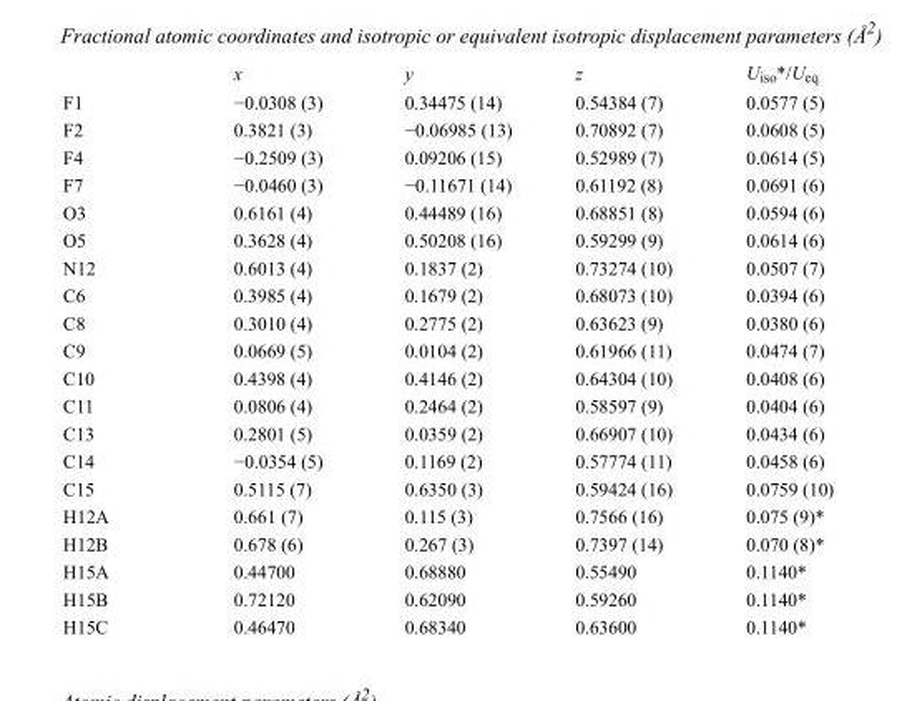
<table><thead><tr><td></td><td>x</td><td>y</td><td>z</td><td>U<sub>iso</sub>*/U<sub>eq</sub></td></tr></thead><tbody><tr><td>F1</td><td>−0.0308 (3)</td><td>0.34475 (14)</td><td>0.54384 (7)</td><td>0.0577 (5)</td></tr><tr><td>F2</td><td>0.3821 (3)</td><td>−0.06985 (13)</td><td>0.70892 (7)</td><td>0.0608 (5)</td></tr><tr><td>F4</td><td>−0.2509 (3)</td><td>0.09206 (15)</td><td>0.52989 (7)</td><td>0.0614 (5)</td></tr><tr><td>F7</td><td>−0.0460 (3)</td><td>−0.11671 (14)</td><td>0.61192 (8)</td><td>0.0691 (6)</td></tr><tr><td>O3</td><td>0.6161 (4)</td><td>0.44489 (16)</td><td>0.68851 (8)</td><td>0.0594 (6)</td></tr><tr><td>O5</td><td>0.3628 (4)</td><td>0.50208 (16)</td><td>0.59299 (9)</td><td>0.0614 (6)</td></tr><tr><td>N12</td><td>0.6013 (4)</td><td>0.1837 (2)</td><td>0.73274 (10)</td><td>0.0507 (7)</td></tr><tr><td>C6</td><td>0.3985 (4)</td><td>0.1679 (2)</td><td>0.68073 (10)</td><td>0.0394 (6)</td></tr><tr><td>C8</td><td>0.3010 (4)</td><td>0.2775 (2)</td><td>0.63623 (9)</td><td>0.0380 (6)</td></tr><tr><td>C9</td><td>0.0669 (5)</td><td>0.0104 (2)</td><td>0.61966 (11)</td><td>0.0474 (7)</td></tr><tr><td>C10</td><td>0.4398 (4)</td><td>0.4146 (2)</td><td>0.64304 (10)</td><td>0.0408 (6)</td></tr><tr><td>C11</td><td>0.0806 (4)</td><td>0.2464 (2)</td><td>0.58597 (9)</td><td>0.0404 (6)</td></tr><tr><td>C13</td><td>0.2801 (5)</td><td>0.0359 (2)</td><td>0.66907 (10)</td><td>0.0434 (6)</td></tr><tr><td>C14</td><td>−0.0354 (5)</td><td>0.1169 (2)</td><td>0.57774 (11)</td><td>0.0458 (6)</td></tr><tr><td>C15</td><td>0.5115 (7)</td><td>0.6350 (3)</td><td>0.59424 (16)</td><td>0.0759 (10)</td></tr><tr><td>H12A</td><td>0.661 (7)</td><td>0.115 (3)</td><td>0.7566 (16)</td><td>0.075 (9)*</td></tr><tr><td>H12B</td><td>0.678 (6)</td><td>0.267 (3)</td><td>0.7397 (14)</td><td>0.070 (8)*</td></tr><tr><td>H15A</td><td>0.44700</td><td>0.68880</td><td>0.55490</td><td>0.1140*</td></tr><tr><td>H15B</td><td>0.72120</td><td>0.62090</td><td>0.59260</td><td>0.1140*</td></tr><tr><td>H15C</td><td>0.46470</td><td>0.68340</td><td>0.63600</td><td>0.1140*</td></tr></tbody></table>